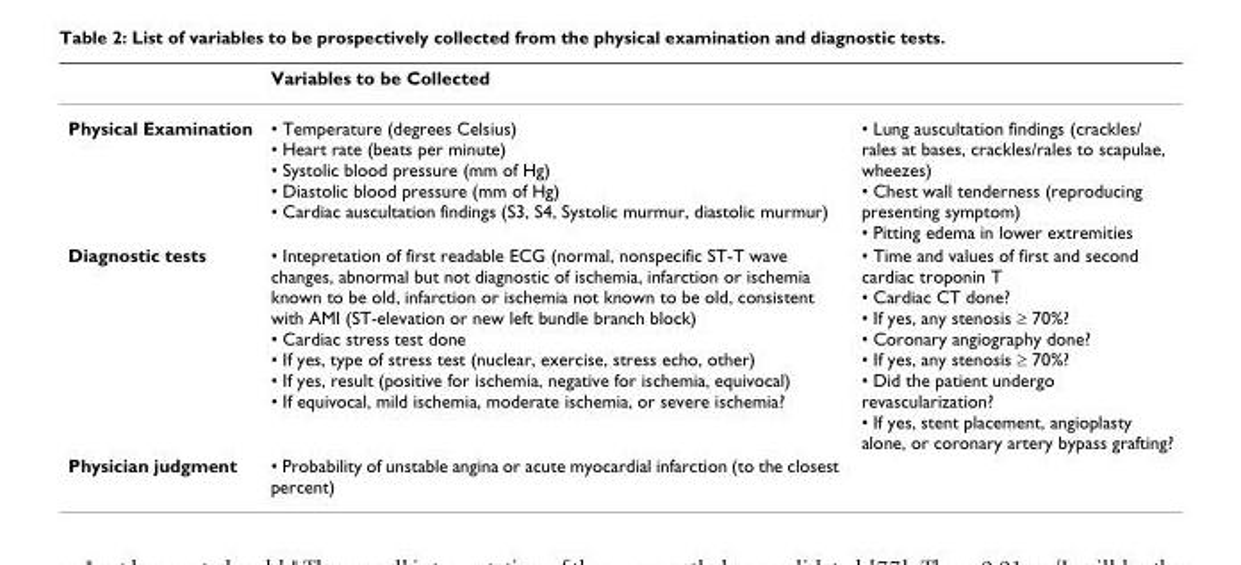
<table><thead><tr><td></td><td>Variables to be Collected</td><td></td></tr></thead><tbody><tr><td>Physical Examination</td><td>• Temperature (degrees Celsius) • Heart rate (beats per minute) • Systolic blood pressure (mm of Hg) • Diastolic blood pressure (mm of Hg) • Cardiac auscultation findings (S3, S4, Systolic murmur, diastolic murmur)</td><td>• Lung auscultation findings (crackles/ rales at bases, crackles/rales to scapulae, wheezes) • Chest wall tenderness (reproducing presenting symptom) • Pitting edema in lower extremities</td></tr><tr><td>Diagnostic tests</td><td>• Intepretation of first readable ECG (normal, nonspecific ST-T wave changes, abnormal but not diagnostic of ischemia, infarction or ischemia known to be old, infarction or ischemia not known to be old, consistent with AMI (ST-elevation or new left bundle branch block) • Cardiac stress test done • If yes, type of stress test (nuclear, exercise, stress echo, other) • If yes, result (positive for ischemia, negative for ischemia, equivocal) • If equivocal, mild ischemia, moderate ischemia, or severe ischemia?</td><td>• Time and values of first and second cardiac troponin T • Cardiac CT done? • If yes, any stenosis ≥ 70%? • Coronary angiography done? • If yes, any stenosis ≥ 70%? • Did the patient undergo revascularization? • If yes, stent placement, angioplasty alone, or coronary artery bypass grafting?</td></tr><tr><td>Physician judgment</td><td>• Probability of unstable angina or acute myocardial infarction (to the closest percent)</td><td></td></tr></tbody></table>